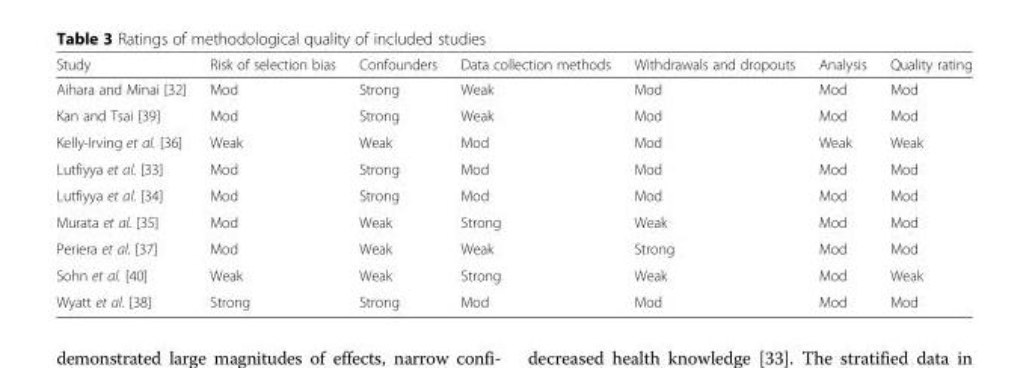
<table><thead><tr><td>Study</td><td>Risk of selection bias</td><td>Confounders</td><td>Data collection methods</td><td>Withdrawals and dropouts</td><td>Analysis</td><td>Quality rating</td></tr></thead><tbody><tr><td>Aihara and Minai [32]</td><td>Mod</td><td>Strong</td><td>Weak</td><td>Mod</td><td>Mod</td><td>Mod</td></tr><tr><td>Kan and Tsai [39]</td><td>Mod</td><td>Strong</td><td>Weak</td><td>Mod</td><td>Mod</td><td>Mod</td></tr><tr><td>Kelly-Irving et al. [36]</td><td>Weak</td><td>Weak</td><td>Mod</td><td>Mod</td><td>Weak</td><td>Weak</td></tr><tr><td>Lutfiyya et al. [33]</td><td>Mod</td><td>Strong</td><td>Mod</td><td>Mod</td><td>Mod</td><td>Mod</td></tr><tr><td>Lutfiyya et al. [34]</td><td>Mod</td><td>Strong</td><td>Mod</td><td>Mod</td><td>Mod</td><td>Mod</td></tr><tr><td>Murata et al. [35]</td><td>Mod</td><td>Weak</td><td>Strong</td><td>Weak</td><td>Mod</td><td>Mod</td></tr><tr><td>Periera et al. [37]</td><td>Mod</td><td>Weak</td><td>Weak</td><td>Strong</td><td>Mod</td><td>Mod</td></tr><tr><td>Sohn et al. [40]</td><td>Weak</td><td>Weak</td><td>Strong</td><td>Weak</td><td>Mod</td><td>Weak</td></tr><tr><td>Wyatt et al. [38]</td><td>Strong</td><td>Strong</td><td>Mod</td><td>Mod</td><td>Mod</td><td>Mod</td></tr></tbody></table>